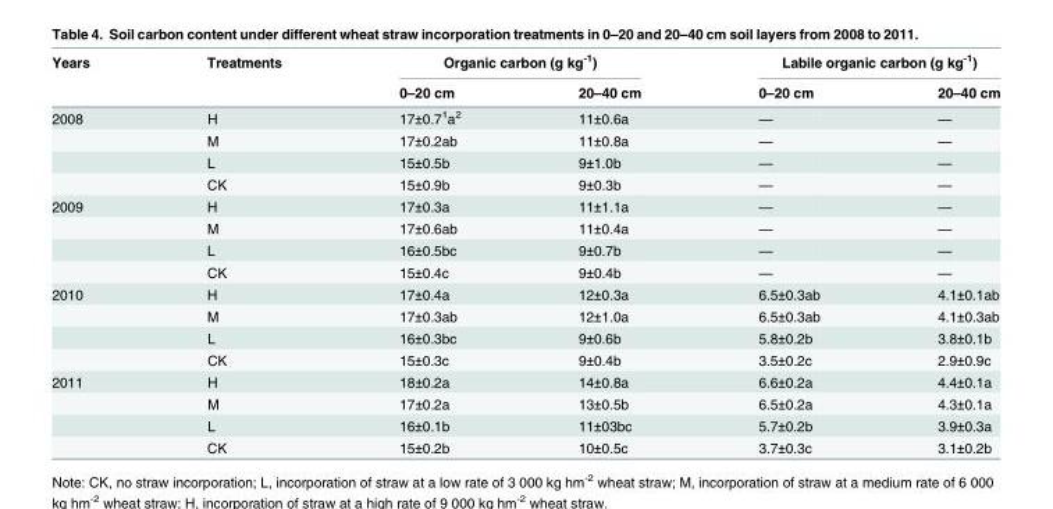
<table><thead><tr><td rowspan="2">Years</td><td rowspan="2">Treatments</td><td colspan="2">Organic carbon (g kg<sup>-1</sup>)</td><td colspan="2">Labile organic carbon (g kg<sup>-1</sup>)</td></tr><tr><td>0–20 cm</td><td>20–40 cm</td><td>0–20 cm</td><td>20–40 cm</td></tr></thead><tbody><tr><td rowspan="4">2008</td><td>H</td><td>17±0.7<sup>1</sup>a<sup>2</sup></td><td>11±0.6a</td><td>—</td><td>—</td></tr><tr><td>M</td><td>17±0.2ab</td><td>11±0.8a</td><td>—</td><td>—</td></tr><tr><td>L</td><td>15±0.5b</td><td>9±1.0b</td><td>—</td><td>—</td></tr><tr><td>CK</td><td>15±0.9b</td><td>9±0.3b</td><td>—</td><td>—</td></tr><tr><td rowspan="4">2009</td><td>H</td><td>17±0.3a</td><td>11±1.1a</td><td>—</td><td>—</td></tr><tr><td>M</td><td>17±0.6ab</td><td>11±0.4a</td><td>—</td><td>—</td></tr><tr><td>L</td><td>16±0.5bc</td><td>9±0.7b</td><td>—</td><td>—</td></tr><tr><td>CK</td><td>15±0.4c</td><td>9±0.4b</td><td>—</td><td>—</td></tr><tr><td rowspan="4">2010</td><td>H</td><td>17±0.4a</td><td>12±0.3a</td><td>6.5±0.3ab</td><td>4.1±0.1ab</td></tr><tr><td>M</td><td>17±0.3ab</td><td>12±1.0a</td><td>6.5±0.3ab</td><td>4.1±0.3ab</td></tr><tr><td>L</td><td>16±0.3bc</td><td>9±0.6b</td><td>5.8±0.2b</td><td>3.8±0.1b</td></tr><tr><td>CK</td><td>15±0.3c</td><td>9±0.4b</td><td>3.5±0.2c</td><td>2.9±0.9c</td></tr><tr><td rowspan="4">2011</td><td>H</td><td>18±0.2a</td><td>14±0.8a</td><td>6.6±0.2a</td><td>4.4±0.1a</td></tr><tr><td>M</td><td>17±0.2a</td><td>13±0.5b</td><td>6.5±0.2a</td><td>4.3±0.1a</td></tr><tr><td>L</td><td>16±0.1b</td><td>11±03bc</td><td>5.7±0.2b</td><td>3.9±0.3a</td></tr><tr><td>CK</td><td>15±0.2b</td><td>10±0.5c</td><td>3.7±0.3c</td><td>3.1±0.2b</td></tr></tbody></table>